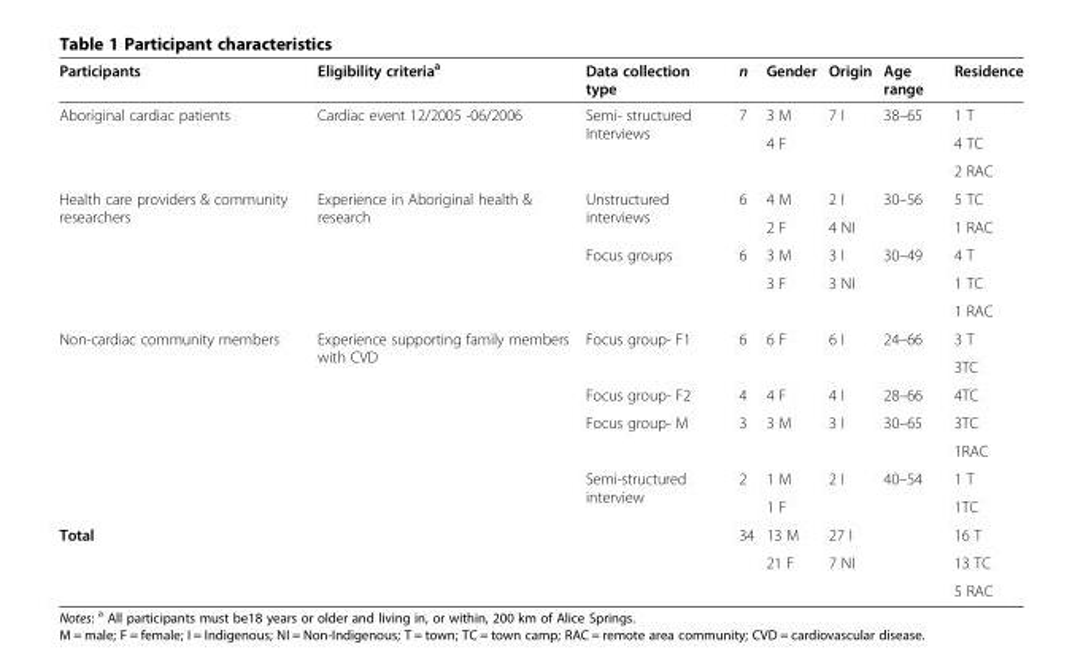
<table><thead><tr><td>Participants</td><td>Eligibility criteria<sup>a</sup></td><td>Data collection type</td><td>n</td><td>Gender</td><td>Origin</td><td>Age range</td><td>Residence</td></tr></thead><tbody><tr><td rowspan="3">Aboriginal cardiac patients</td><td rowspan="3">Cardiac event 12/2005 -06/2006</td><td rowspan="3">Semi- structured Interviews</td><td rowspan="3">7</td><td>3 M</td><td rowspan="3">7 I</td><td rowspan="3">38–65</td><td>1 T</td></tr><tr><td rowspan="2">4 F</td><td>4 TC</td></tr><tr><td>2 RAC</td></tr><tr><td rowspan="5">Health care providers &amp; community researchers</td><td rowspan="5">Experience in Aboriginal health &amp; research</td><td rowspan="2">Unstructured interviews</td><td rowspan="2">6</td><td>4 M</td><td>2 I</td><td>30–56</td><td>5 TC</td></tr><tr><td>2 F</td><td>4 NI</td><td></td><td>1 RAC</td></tr><tr><td rowspan="3">Focus groups</td><td rowspan="3">6</td><td>3 M</td><td>3 I</td><td>30–49</td><td>4 T</td></tr><tr><td rowspan="2">3 F</td><td rowspan="2">3 NI</td><td rowspan="2"></td><td>1 TC</td></tr><tr><td>1 RAC</td></tr><tr><td rowspan="7">Non-cardiac community members</td><td rowspan="7">Experience supporting family members with CVD</td><td rowspan="2">Focus group- F1</td><td rowspan="2">6</td><td rowspan="2">6 F</td><td rowspan="2">6 I</td><td rowspan="2">24–66</td><td>3 T</td></tr><tr><td>3TC</td></tr><tr><td>Focus group- F2</td><td>4</td><td>4 F</td><td>4 I</td><td>28–66</td><td>4TC</td></tr><tr><td rowspan="2">Focus group- M</td><td rowspan="2">3</td><td rowspan="2">3 M</td><td rowspan="2">3 I</td><td rowspan="2">30–65</td><td>3TC</td></tr><tr><td>1RAC</td></tr><tr><td rowspan="2">Semi-structured interview</td><td rowspan="2">2</td><td>1 M</td><td rowspan="2">2 I</td><td rowspan="2">40–54</td><td>1 T</td></tr><tr><td>1 F</td><td>1TC</td></tr><tr><td rowspan="2" colspan="3">Total</td><td rowspan="2">34</td><td>13 M</td><td>27 I</td><td rowspan="2"></td><td>16 T</td></tr><tr><td>21 F</td><td>7 NI</td><td>13 TC</td></tr><tr><td></td><td></td><td></td><td></td><td></td><td></td><td></td><td>5 RAC</td></tr></tbody></table>